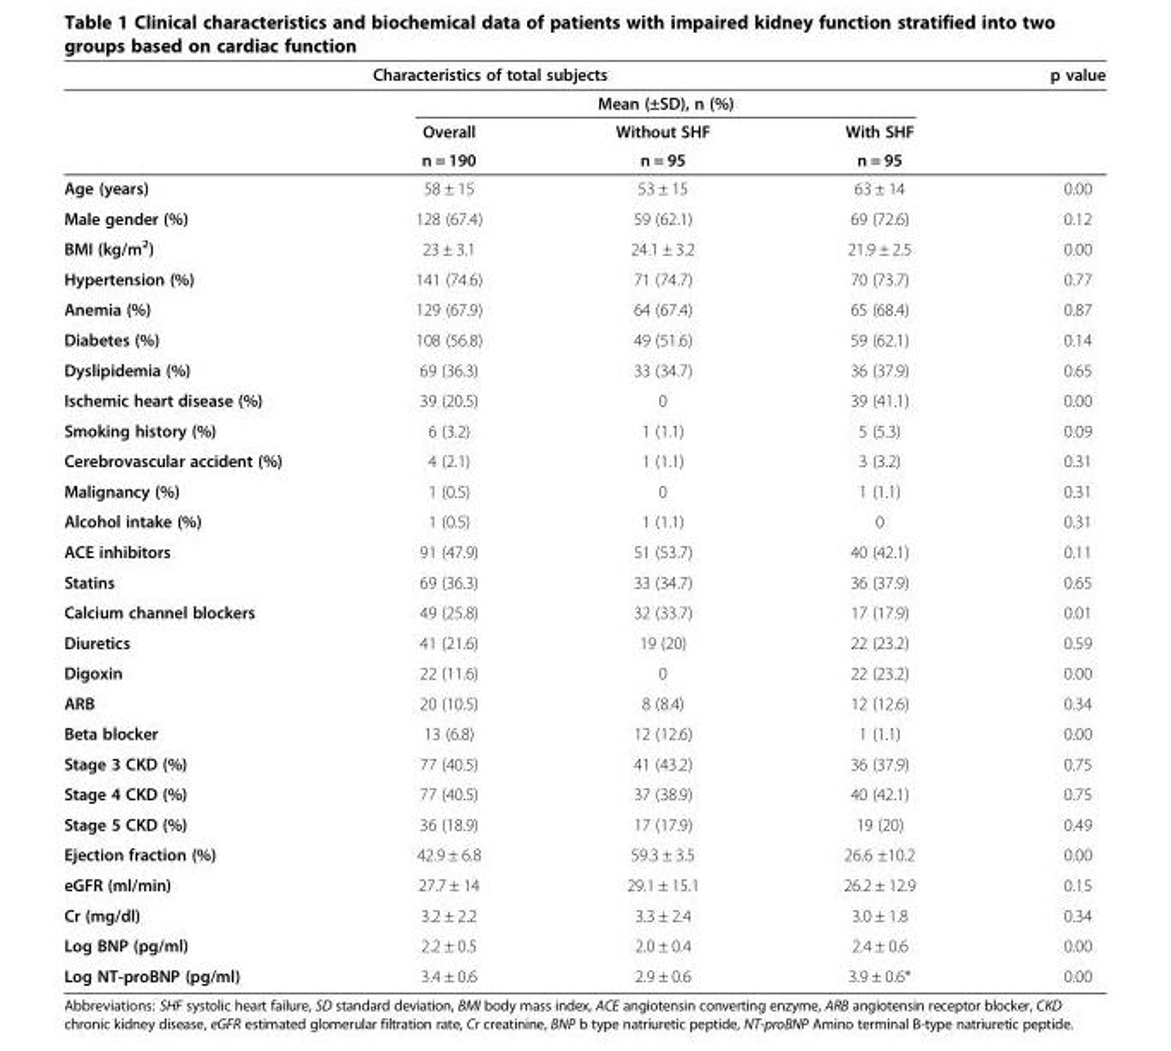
<table><thead><tr><td colspan="4">Characteristics of total subjects</td><td rowspan="4">p value</td></tr><tr><td rowspan="3"></td><td colspan="3">Mean (±SD), n (%)</td></tr><tr><td rowspan="2">Overall n = 190</td><td rowspan="2">Without SHF n = 95</td><td rowspan="2">With SHF n = 95</td></tr><tr></tr></thead><tbody><tr><td>Age (years)</td><td>58 ± 15</td><td>53 ± 15</td><td>63 ± 14</td><td>0.00</td></tr><tr><td>Male gender (%)</td><td>128 (67.4)</td><td>59 (62.1)</td><td>69 (72.6)</td><td>0.12</td></tr><tr><td>BMI (kg/m<sup>2</sup>)</td><td>23 ± 3.1</td><td>24.1 ± 3.2</td><td>21.9 ± 2.5</td><td>0.00</td></tr><tr><td>Hypertension (%)</td><td>141 (74.6)</td><td>71 (74.7)</td><td>70 (73.7)</td><td>0.77</td></tr><tr><td>Anemia (%)</td><td>129 (67.9)</td><td>64 (67.4)</td><td>65 (68.4)</td><td>0.87</td></tr><tr><td>Diabetes (%)</td><td>108 (56.8)</td><td>49 (51.6)</td><td>59 (62.1)</td><td>0.14</td></tr><tr><td>Dyslipidemia (%)</td><td>69 (36.3)</td><td>33 (34.7)</td><td>36 (37.9)</td><td>0.65</td></tr><tr><td>Ischemic heart disease (%)</td><td>39 (20.5)</td><td>0</td><td>39 (41.1)</td><td>0.00</td></tr><tr><td>Smoking history (%)</td><td>6 (3.2)</td><td>1 (1.1)</td><td>5 (5.3)</td><td>0.09</td></tr><tr><td>Cerebrovascular accident (%)</td><td>4 (2.1)</td><td>1 (1.1)</td><td>3 (3.2)</td><td>0.31</td></tr><tr><td>Malignancy (%)</td><td>1 (0.5)</td><td>0</td><td>1 (1.1)</td><td>0.31</td></tr><tr><td>Alcohol intake (%)</td><td>1 (0.5)</td><td>1 (1.1)</td><td>0</td><td>0.31</td></tr><tr><td>ACE inhibitors</td><td>91 (47.9)</td><td>51 (53.7)</td><td>40 (42.1)</td><td>0.11</td></tr><tr><td>Statins</td><td>69 (36.3)</td><td>33 (34.7)</td><td>36 (37.9)</td><td>0.65</td></tr><tr><td>Calcium channel blockers</td><td>49 (25.8)</td><td>32 (33.7)</td><td>17 (17.9)</td><td>0.01</td></tr><tr><td>Diuretics</td><td>41 (21.6)</td><td>19 (20)</td><td>22 (23.2)</td><td>0.59</td></tr><tr><td>Digoxin</td><td>22 (11.6)</td><td>0</td><td>22 (23.2)</td><td>0.00</td></tr><tr><td>ARB</td><td>20 (10.5)</td><td>8 (8.4)</td><td>12 (12.6)</td><td>0.34</td></tr><tr><td>Beta blocker</td><td>13 (6.8)</td><td>12 (12.6)</td><td>1 (1.1)</td><td>0.00</td></tr><tr><td>Stage 3 CKD (%)</td><td>77 (40.5)</td><td>41 (43.2)</td><td>36 (37.9)</td><td>0.75</td></tr><tr><td>Stage 4 CKD (%)</td><td>77 (40.5)</td><td>37 (38.9)</td><td>40 (42.1)</td><td>0.75</td></tr><tr><td>Stage 5 CKD (%)</td><td>36 (18.9)</td><td>17 (17.9)</td><td>19 (20)</td><td>0.49</td></tr><tr><td>Ejection fraction (%)</td><td>42.9 ± 6.8</td><td>59.3 ± 3.5</td><td>26.6 ±10.2</td><td>0.00</td></tr><tr><td>eGFR (ml/min)</td><td>27.7 ± 14</td><td>29.1 ± 15.1</td><td>26.2 ± 12.9</td><td>0.15</td></tr><tr><td>Cr (mg/dl)</td><td>3.2 ± 2.2</td><td>3.3 ± 2.4</td><td>3.0 ± 1.8</td><td>0.34</td></tr><tr><td>Log BNP (pg/ml)</td><td>2.2 ± 0.5</td><td>2.0 ± 0.4</td><td>2.4 ± 0.6</td><td>0.00</td></tr><tr><td>Log NT-proBNP (pg/ml)</td><td>3.4 ± 0.6</td><td>2.9 ± 0.6</td><td>3.9 ± 0.6*</td><td>0.00</td></tr></tbody></table>